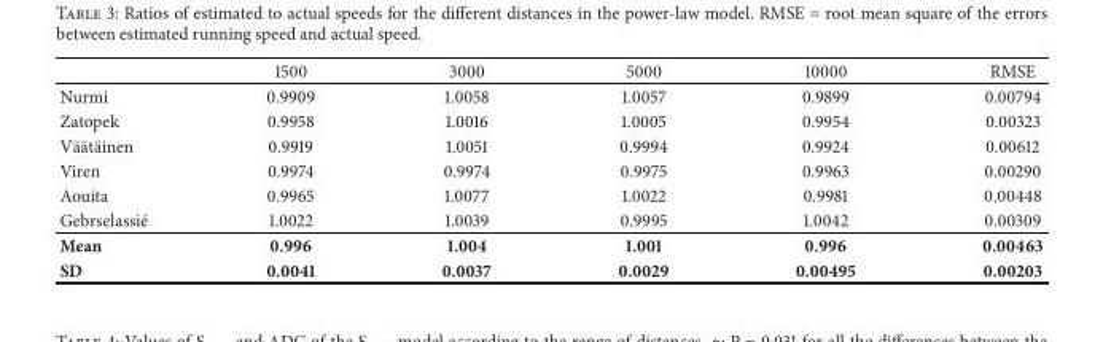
<table><thead><tr><td></td><td>1500</td><td>3000</td><td>5000</td><td>10000</td><td>RMSE</td></tr></thead><tbody><tr><td>Nurmi</td><td>0.9909</td><td>1.0058</td><td>1.0057</td><td>0.9899</td><td>0.00794</td></tr><tr><td>Zatopek</td><td>0.9958</td><td>1.0016</td><td>1.0005</td><td>0.9954</td><td>0.00323</td></tr><tr><td>V¨a¨at¨ainen</td><td>0.9919</td><td>1.0051</td><td>0.9994</td><td>0.9924</td><td>0.00612</td></tr><tr><td>Viren</td><td>0.9974</td><td>0.9974</td><td>0.9975</td><td>0.9963</td><td>0.00290</td></tr><tr><td>Aouita</td><td>0.9965</td><td>1.0077</td><td>1.0022</td><td>0.9981</td><td>0.00448</td></tr><tr><td>Gebrselassi´e</td><td>1.0022</td><td>1.0039</td><td>0.9995</td><td>1.0042</td><td>0.00309</td></tr><tr><td>Mean</td><td>0.996</td><td>1.004</td><td>1.001</td><td>0.996</td><td>0.00463</td></tr><tr><td>SD</td><td>0.0041</td><td>0.0037</td><td>0.0029</td><td>0.00495</td><td>0.00203</td></tr></tbody></table>